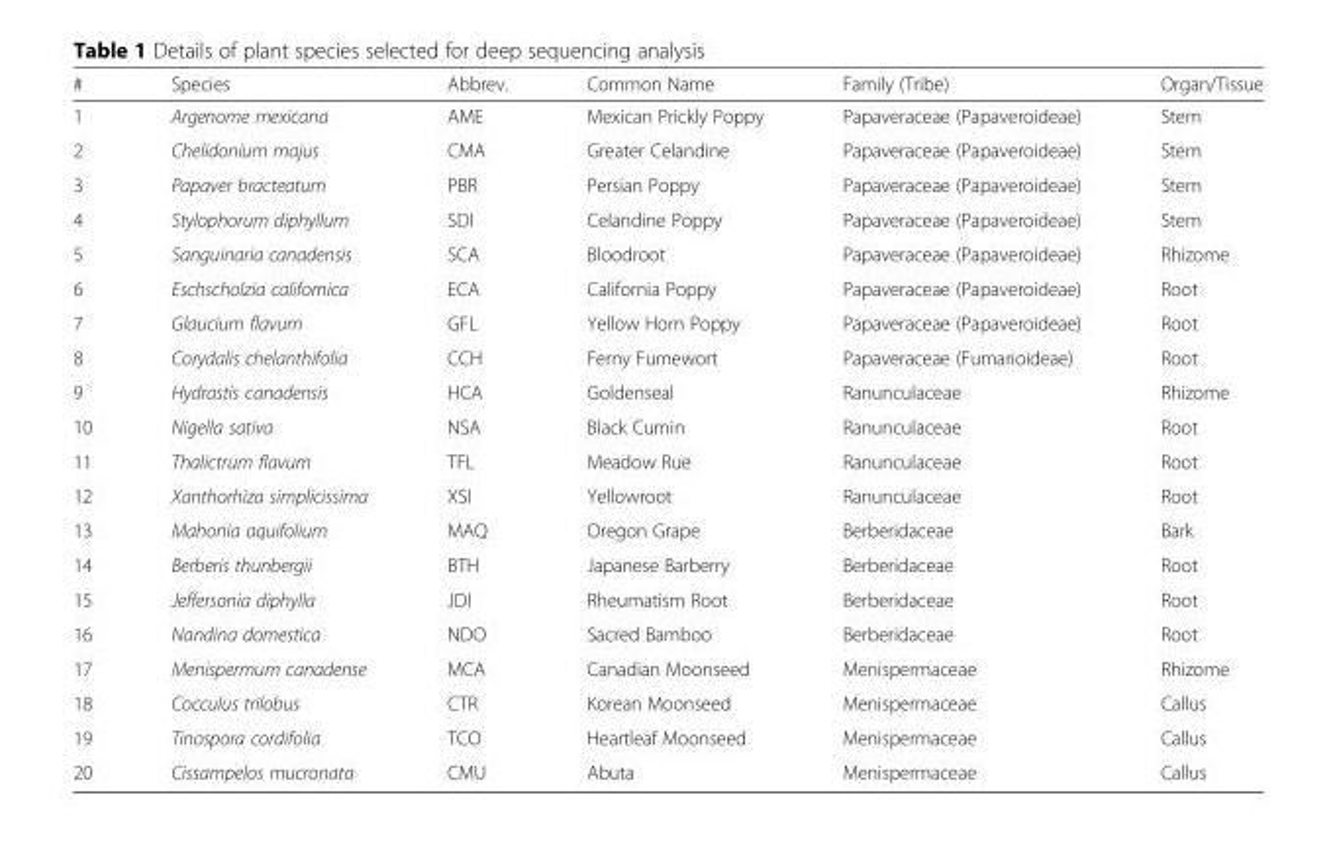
<table><thead><tr><td>#</td><td>Species</td><td>Abbrev.</td><td>Common Name</td><td>Family (Tribe)</td><td>Organ/Tissue</td></tr></thead><tbody><tr><td>1</td><td>Argenome mexicana</td><td>AME</td><td>Mexican Prickly Poppy</td><td>Papaveraceae (Papaveroideae)</td><td>Stem</td></tr><tr><td>2</td><td>Chelidonium majus</td><td>CMA</td><td>Greater Celandine</td><td>Papaveraceae (Papaveroideae)</td><td>Stem</td></tr><tr><td>3</td><td>Papaver bracteatum</td><td>PBR</td><td>Persian Poppy</td><td>Papaveraceae (Papaveroideae)</td><td>Stem</td></tr><tr><td>4</td><td>Stylophorum diphyllum</td><td>SDI</td><td>Celandine Poppy</td><td>Papaveraceae (Papaveroideae)</td><td>Stem</td></tr><tr><td>5</td><td>Sanguinaria canadensis</td><td>SCA</td><td>Bloodroot</td><td>Papaveraceae (Papaveroideae)</td><td>Rhizome</td></tr><tr><td>6</td><td>Eschscholzia californica</td><td>ECA</td><td>California Poppy</td><td>Papaveraceae (Papaveroideae)</td><td>Root</td></tr><tr><td>7</td><td>Glaucium flavum</td><td>GFL</td><td>Yellow Horn Poppy</td><td>Papaveraceae (Papaveroideae)</td><td>Root</td></tr><tr><td>8</td><td>Corydalis chelanthifolia</td><td>CCH</td><td>Ferny Fumewort</td><td>Papaveraceae (Fumarioideae)</td><td>Root</td></tr><tr><td>9</td><td>Hydrastis canadensis</td><td>HCA</td><td>Goldenseal</td><td>Ranunculaceae</td><td>Rhizome</td></tr><tr><td>10</td><td>Nigella sativa</td><td>NSA</td><td>Black Cumin</td><td>Ranunculaceae</td><td>Root</td></tr><tr><td>11</td><td>Thalictrum flavum</td><td>TFL</td><td>Meadow Rue</td><td>Ranunculaceae</td><td>Root</td></tr><tr><td>12</td><td>Xanthorhiza simplicissima</td><td>XSI</td><td>Yellowroot</td><td>Ranunculaceae</td><td>Root</td></tr><tr><td>13</td><td>Mahonia aquifolium</td><td>MAQ</td><td>Oregon Grape</td><td>Berberidaceae</td><td>Bark</td></tr><tr><td>14</td><td>Berberis thunbergii</td><td>BTH</td><td>Japanese Barberry</td><td>Berberidaceae</td><td>Root</td></tr><tr><td>15</td><td>Jeffersonia diphylla</td><td>JDI</td><td>Rheumatism Root</td><td>Berberidaceae</td><td>Root</td></tr><tr><td>16</td><td>Nandina domestica</td><td>NDO</td><td>Sacred Bamboo</td><td>Berberidaceae</td><td>Root</td></tr><tr><td>17</td><td>Menispermum canadense</td><td>MCA</td><td>Canadian Moonseed</td><td>Menispermaceae</td><td>Rhizome</td></tr><tr><td>18</td><td>Cocculus trilobus</td><td>CTR</td><td>Korean Moonseed</td><td>Menispermaceae</td><td>Callus</td></tr><tr><td>19</td><td>Tinospora cordifolia</td><td>TCO</td><td>Heartleaf Moonseed</td><td>Menispermaceae</td><td>Callus</td></tr><tr><td>20</td><td>Cissampelos mucronata</td><td>CMU</td><td>Abuta</td><td>Menispermaceae</td><td>Callus</td></tr></tbody></table>